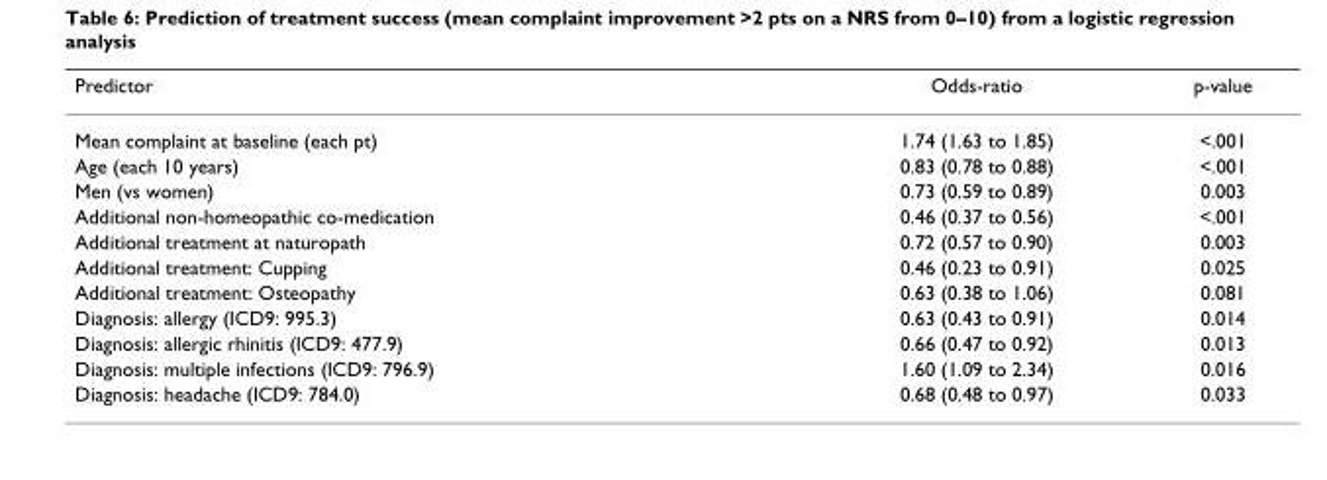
<table><thead><tr><td>Predictor</td><td>Odds-ratio</td><td>p-value</td></tr></thead><tbody><tr><td>Mean complaint at baseline (each pt)</td><td>1.74 (1.63 to 1.85)</td><td>&lt;.001</td></tr><tr><td>Age (each 10 years)</td><td>0.83 (0.78 to 0.88)</td><td>&lt;.001</td></tr><tr><td>Men (vs women)</td><td>0.73 (0.59 to 0.89)</td><td>0.003</td></tr><tr><td>Additional non-homeopathic co-medication</td><td>0.46 (0.37 to 0.56)</td><td>&lt;.001</td></tr><tr><td>Additional treatment at naturopath</td><td>0.72 (0.57 to 0.90)</td><td>0.003</td></tr><tr><td>Additional treatment: Cupping</td><td>0.46 (0.23 to 0.91)</td><td>0.025</td></tr><tr><td>Additional treatment: Osteopathy</td><td>0.63 (0.38 to 1.06)</td><td>0.081</td></tr><tr><td>Diagnosis: allergy (ICD9: 995.3)</td><td>0.63 (0.43 to 0.91)</td><td>0.014</td></tr><tr><td>Diagnosis: allergic rhinitis (ICD9: 477.9)</td><td>0.66 (0.47 to 0.92)</td><td>0.013</td></tr><tr><td>Diagnosis: multiple infections (ICD9: 796.9)</td><td>1.60 (1.09 to 2.34)</td><td>0.016</td></tr><tr><td>Diagnosis: headache (ICD9: 784.0)</td><td>0.68 (0.48 to 0.97)</td><td>0.033</td></tr></tbody></table>